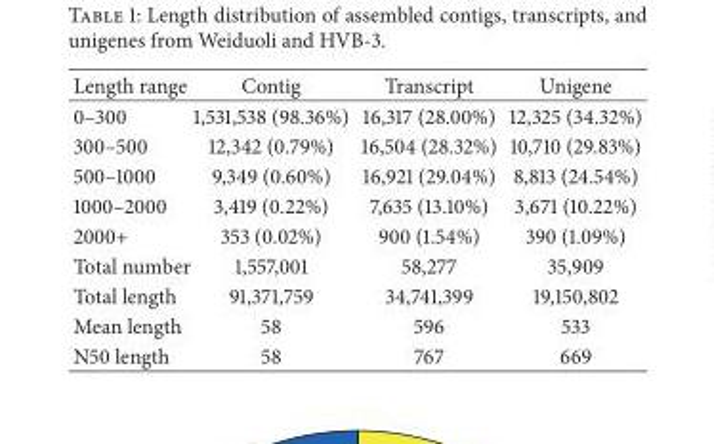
<table><thead><tr><td>Length range</td><td>Contig</td><td>Transcript</td><td>Unigene</td></tr></thead><tbody><tr><td>0–300</td><td>1,531,538 (98.36%)</td><td>16,317 (28.00%)</td><td>12,325 (34.32%)</td></tr><tr><td>300–500</td><td>12,342 (0.79%)</td><td>16,504 (28.32%)</td><td>10,710 (29.83%)</td></tr><tr><td>500–1000</td><td>9,349 (0.60%)</td><td>16,921 (29.04%)</td><td>8,813 (24.54%)</td></tr><tr><td>1000–2000</td><td>3,419 (0.22%)</td><td>7,635 (13.10%)</td><td>3,671 (10.22%)</td></tr><tr><td>2000+</td><td>353 (0.02%)</td><td>900 (1.54%)</td><td>390 (1.09%)</td></tr><tr><td>Total number</td><td>1,557,001</td><td>58,277</td><td>35,909</td></tr><tr><td>Total length</td><td>91,371,759</td><td>34,741,399</td><td>19,150,802</td></tr><tr><td>Mean length</td><td>58</td><td>596</td><td>533</td></tr><tr><td>N50 length</td><td>58</td><td>767</td><td>669</td></tr></tbody></table>